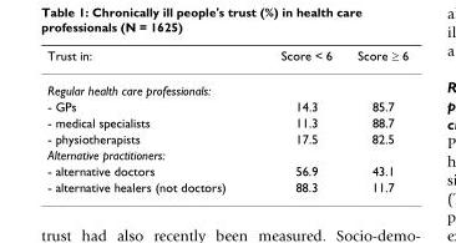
<table><thead><tr><td>Trust in:</td><td>Score &lt; 6</td><td>Score ≥ 6</td></tr></thead><tbody><tr><td colspan="3">Regular health care professionals:</td></tr><tr><td>- GPs</td><td>14.3</td><td>85.7</td></tr><tr><td>- medical specialists</td><td>11.3</td><td>88.7</td></tr><tr><td>- physiotherapists</td><td>17.5</td><td>82.5</td></tr><tr><td colspan="3">Alternative practitioners:</td></tr><tr><td>- alternative doctors</td><td>56.9</td><td>43.1</td></tr><tr><td>- alternative healers (not doctors)</td><td>88.3</td><td>11.7</td></tr></tbody></table>